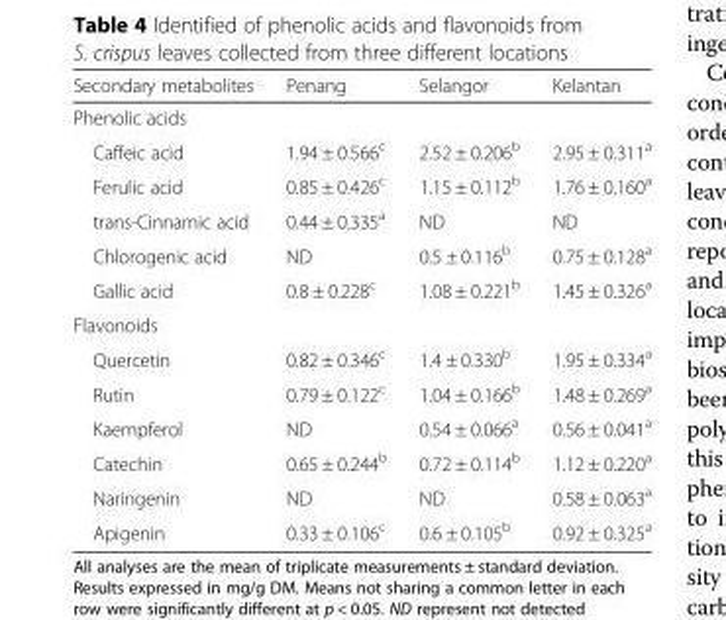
<table><thead><tr><td>Secondary metabolites</td><td>Penang</td><td>Selangor</td><td>Kelantan</td></tr></thead><tbody><tr><td colspan="4">Phenolic acids</td></tr><tr><td>Caffeic acid</td><td>1.94 ± 0.566<sup>c</sup></td><td>2.52 ± 0.206<sup>b</sup></td><td>2.95 ± 0.311<sup>a</sup></td></tr><tr><td>Ferulic acid</td><td>0.85 ± 0.426<sup>c</sup></td><td>1.15 ± 0.112<sup>b</sup></td><td>1.76 ± 0.160<sup>a</sup></td></tr><tr><td>trans-Cinnamic acid</td><td>0.44 ± 0.335<sup>a</sup></td><td>ND</td><td>ND</td></tr><tr><td>Chlorogenic acid</td><td>ND</td><td>0.5 ± 0.116<sup>b</sup></td><td>0.75 ± 0.128<sup>a</sup></td></tr><tr><td>Gallic acid</td><td>0.8 ± 0.228<sup>c</sup></td><td>1.08 ± 0.221<sup>b</sup></td><td>1.45 ± 0.326<sup>a</sup></td></tr><tr><td colspan="4">Flavonoids</td></tr><tr><td>Quercetin</td><td>0.82 ± 0.346<sup>c</sup></td><td>1.4 ± 0.330<sup>b</sup></td><td>1.95 ± 0.334<sup>a</sup></td></tr><tr><td>Rutin</td><td>0.79 ± 0.122<sup>c</sup></td><td>1.04 ± 0.166<sup>b</sup></td><td>1.48 ± 0.269<sup>a</sup></td></tr><tr><td>Kaempferol</td><td>ND</td><td>0.54 ± 0.066<sup>a</sup></td><td>0.56 ± 0.041<sup>a</sup></td></tr><tr><td>Catechin</td><td>0.65 ± 0.244<sup>b</sup></td><td>0.72 ± 0.114<sup>b</sup></td><td>1.12 ± 0.220<sup>a</sup></td></tr><tr><td>Naringenin</td><td>ND</td><td>ND</td><td>0.58 ± 0.063<sup>a</sup></td></tr><tr><td>Apigenin</td><td>0.33 ± 0.106<sup>c</sup></td><td>0.6 ± 0.105<sup>b</sup></td><td>0.92 ± 0.325<sup>a</sup></td></tr></tbody></table>